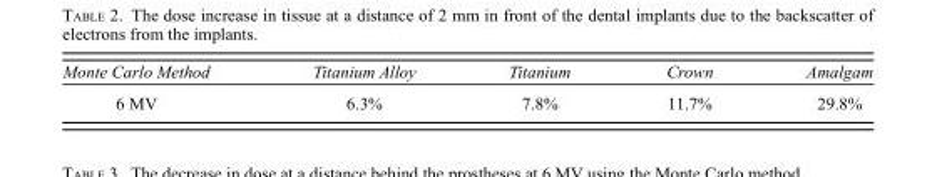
<table><thead><tr><td>Monte Carlo Method</td><td>Titanium Alloy</td><td>Titanium</td><td>Crown</td><td>Amalgam</td></tr></thead><tbody><tr><td>6 MV</td><td>6.3%</td><td>7.8%</td><td>11.7%</td><td>29.8%</td></tr></tbody></table>